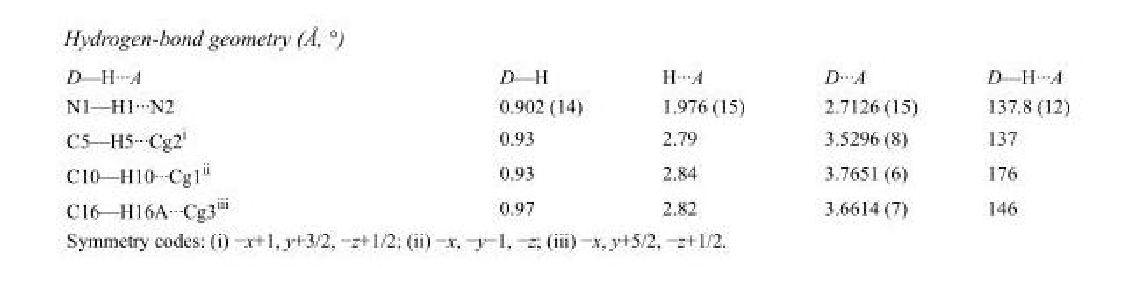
<table><tbody><tr><td>D—H···A</td><td>D—H</td><td>H···A</td><td>D···A</td><td>D—H···A</td></tr><tr><td>N1—H1···N2</td><td>0.902 (14)</td><td>1.976 (15)</td><td>2.7126 (15)</td><td>137.8 (12)</td></tr><tr><td>C5—H5···Cg2<sup>i</sup></td><td>0.93</td><td>2.79</td><td>3.5296 (8)</td><td>137</td></tr><tr><td>C10—H10···Cg1<sup>ii</sup></td><td>0.93</td><td>2.84</td><td>3.7651 (6)</td><td>176</td></tr><tr><td>C16—H16A···Cg3<sup>iii</sup></td><td>0.97</td><td>2.82</td><td>3.6614 (7)</td><td>146</td></tr></tbody></table>